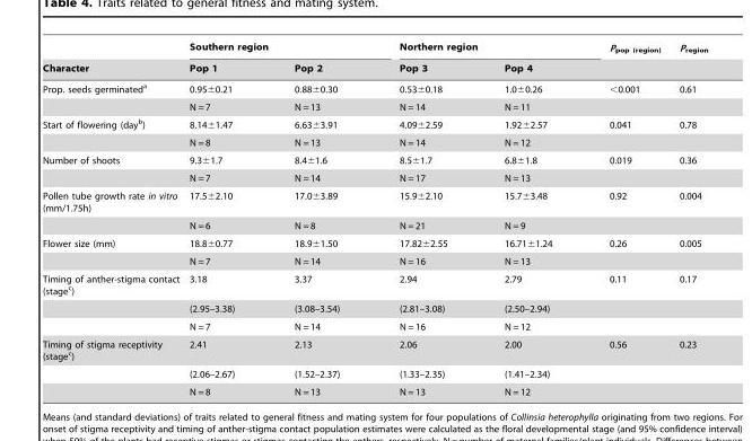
<table><thead><tr><td rowspan="2">Character</td><td colspan="2">Southern region</td><td colspan="2">Northern region</td><td rowspan="2">P<sub>pop (region)</sub></td><td rowspan="2">P<sub>region</sub></td></tr><tr><td>Pop 1</td><td>Pop 2</td><td>Pop 3</td><td>Pop 4</td></tr></thead><tbody><tr><td rowspan="2">Prop. seeds germinated<sup>a</sup></td><td>0.95±0.21</td><td>0.88±0.30</td><td>0.53±0.18</td><td>1.0±0.26</td><td>&lt;0.001</td><td>0.61</td></tr><tr><td>N = 7</td><td>N = 13</td><td>N = 14</td><td>N = 11</td><td></td><td></td></tr><tr><td rowspan="2">Start of flowering (day<sup>b</sup>)</td><td>8.14±1.47</td><td>6.63±3.91</td><td>4.09±2.59</td><td>1.92±2.57</td><td>0.041</td><td>0.78</td></tr><tr><td>N = 8</td><td>N = 13</td><td>N = 14</td><td>N = 12</td><td></td><td></td></tr><tr><td rowspan="2">Number of shoots</td><td>9.3±1.7</td><td>8.4±1.6</td><td>8.5±1.7</td><td>6.8±1.8</td><td>0.019</td><td>0.36</td></tr><tr><td>N = 7</td><td>N = 14</td><td>N = 17</td><td>N = 13</td><td></td><td></td></tr><tr><td rowspan="2">Pollen tube growth rate in vitro (mm/1.75h)</td><td>17.5±2.10</td><td>17.0±3.89</td><td>15.9±2.10</td><td>15.7±3.48</td><td>0.92</td><td>0.004</td></tr><tr><td>N = 6</td><td>N = 8</td><td>N = 21</td><td>N = 9</td><td></td><td></td></tr><tr><td rowspan="2">Flower size (mm)</td><td>18.8±0.77</td><td>18.9±1.50</td><td>17.82±2.55</td><td>16.71±1.24</td><td>0.26</td><td>0.005</td></tr><tr><td>N = 7</td><td>N = 14</td><td>N = 16</td><td>N = 13</td><td></td><td></td></tr><tr><td rowspan="3">Timing of anther-stigma contact (stage<sup>c</sup>)</td><td>3.18</td><td>3.37</td><td>2.94</td><td>2.79</td><td>0.11</td><td>0.17</td></tr><tr><td>(2.95–3.38)</td><td>(3.08–3.54)</td><td>(2.81–3.08)</td><td>(2.50–2.94)</td><td></td><td></td></tr><tr><td>N = 7</td><td>N = 14</td><td>N = 16</td><td>N = 12</td><td></td><td></td></tr><tr><td rowspan="3">Timing of stigma receptivity (stage<sup>c</sup>)</td><td>2.41</td><td>2.13</td><td>2.06</td><td>2.00</td><td>0.56</td><td>0.23</td></tr><tr><td>(2.06–2.67)</td><td>(1.52–2.37)</td><td>(1.33–2.35)</td><td>(1.41–2.34)</td><td></td><td></td></tr><tr><td>N = 8</td><td>N = 13</td><td>N = 13</td><td>N = 12</td><td></td><td></td></tr></tbody></table>